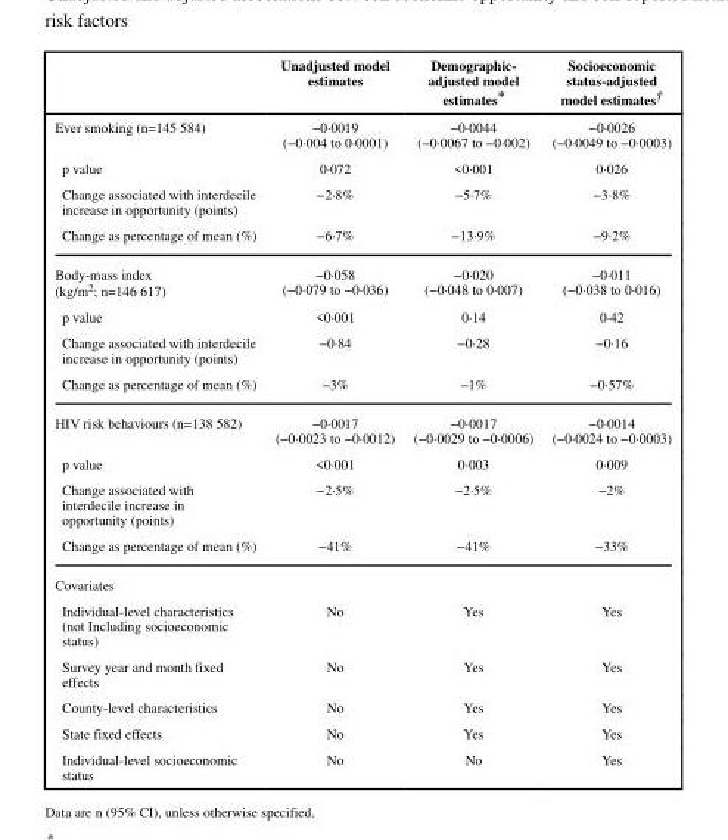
<table><thead><tr><td></td><td>Unadjusted model estimates</td><td>Demographic- adjusted model estimates*</td><td>Socioeconomic status-adjusted model estimates†</td></tr></thead><tbody><tr><td>Ever smoking (n=145 584)</td><td>−0·0019 (−0·004 to 0·0001)</td><td>−0·0044 (−0·0067 to −0·002)</td><td>−0·0026 (−0·0049 to −0·0003)</td></tr><tr><td>p value</td><td>0·072</td><td>&lt;0·001</td><td>0·026</td></tr><tr><td>Change associated with interdecile increase in opportunity (points)</td><td>−2·8%</td><td>−5·7%</td><td>−3·8%</td></tr><tr><td>Change as percentage of mean (%)</td><td>−6·7%</td><td>−13·9%</td><td>−9·2%</td></tr><tr><td>Body-mass index (kg/m<sup>2</sup>; n=146 617)</td><td>−0·058 (−0·079 to −0·036)</td><td>−0·020 (−0·048 to 0·007)</td><td>−0·011 (−0·038 to 0·016)</td></tr><tr><td>p value</td><td>&lt;0·001</td><td>0·14</td><td>0·42</td></tr><tr><td>Change associated with interdecile increase in opportunity (points)</td><td>−0·84</td><td>−0·28</td><td>−0·16</td></tr><tr><td>Change as percentage of mean (%)</td><td>−3%</td><td>−1%</td><td>−0·57%</td></tr><tr><td>HIV risk behaviours (n=138 582)</td><td>−0·0017 (−0·0023 to −0·0012)</td><td>−0·0017 (−0·0029 to −0·0006)</td><td>−0·0014 (−0·0024 to −0·0003)</td></tr><tr><td>p value</td><td>&lt;0·001</td><td>0·003</td><td>0·009</td></tr><tr><td>Change associated with interdecile increase in opportunity (points)</td><td>−2·5%</td><td>−2·5%</td><td>−2%</td></tr><tr><td>Change as percentage of mean (%)</td><td>−41%</td><td>−41%</td><td>−33%</td></tr><tr><td colspan="4">Covariates</td></tr><tr><td>Individual-level characteristics (not Including socioeconomic status)</td><td>No</td><td>Yes</td><td>Yes</td></tr><tr><td>Survey year and month fixed effects</td><td>No</td><td>Yes</td><td>Yes</td></tr><tr><td>County-level characteristics</td><td>No</td><td>Yes</td><td>Yes</td></tr><tr><td>State fixed effects</td><td>No</td><td>Yes</td><td>Yes</td></tr><tr><td>Individual-level socioeconomic status</td><td>No</td><td>No</td><td>Yes</td></tr></tbody></table>